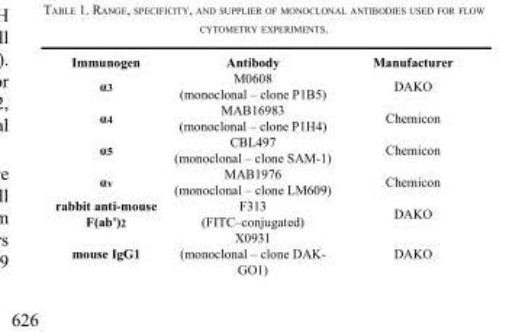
<table><thead><tr><td>Immunogen</td><td>Antibody</td><td>Manufacturer</td></tr></thead><tbody><tr><td>α<sub>3</sub></td><td>M0608 (monoclonal – clone P1B5)</td><td>DAKO</td></tr><tr><td>α<sub>4</sub></td><td>MAB16983 (monoclonal – clone P1H4)</td><td>Chemicon</td></tr><tr><td>α<sub>5</sub></td><td>CBL497 (monoclonal – clone SAM-1)</td><td>Chemicon</td></tr><tr><td>α<sub>v</sub></td><td>MAB1976 (monoclonal – clone LM609)</td><td>Chemicon</td></tr><tr><td>rabbit anti-mouse F(ab&#x27;)<sub>2</sub></td><td>F313 (FITC–conjugated)</td><td>DAKO</td></tr><tr><td>mouse IgG1</td><td>X0931 (monoclonal – clone DAK- GO1)</td><td>DAKO</td></tr></tbody></table>